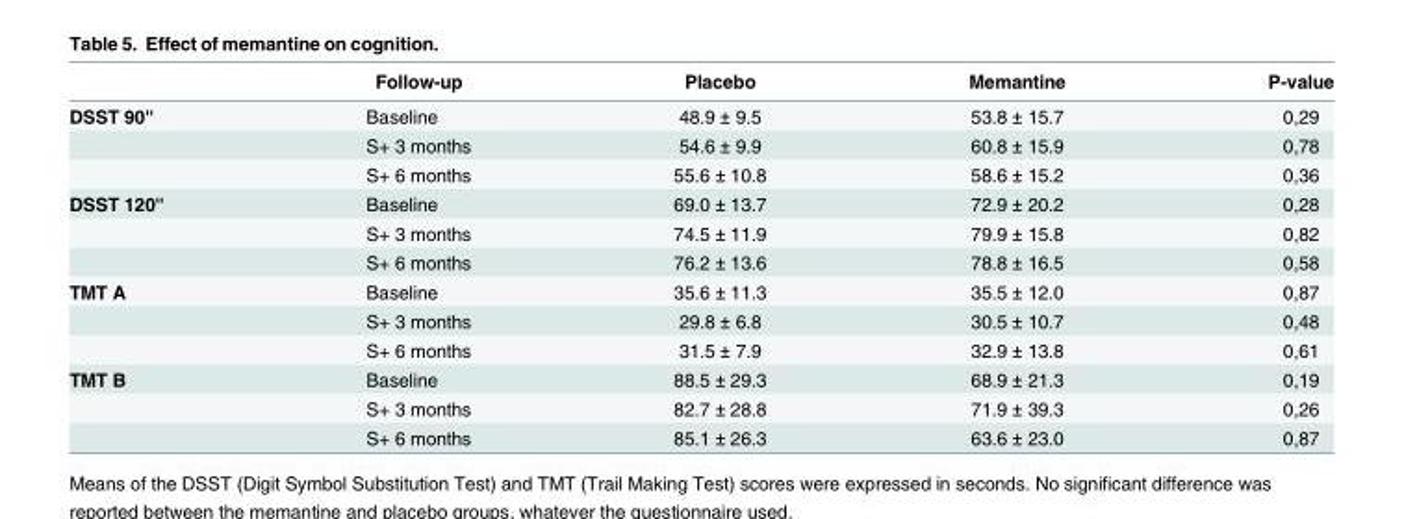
<table><thead><tr><td></td><td>Follow-up</td><td>Placebo</td><td>Memantine</td><td>P-value</td></tr></thead><tbody><tr><td rowspan="3">DSST 90&#x27;&#x27;</td><td>Baseline</td><td>48.9 ± 9.5</td><td>53.8 ± 15.7</td><td>0,29</td></tr><tr><td>S+ 3 months</td><td>54.6 ± 9.9</td><td>60.8 ± 15.9</td><td>0,78</td></tr><tr><td>S+ 6 months</td><td>55.6 ± 10.8</td><td>58.6 ± 15.2</td><td>0,36</td></tr><tr><td rowspan="3">DSST 120&#x27;&#x27;</td><td>Baseline</td><td>69.0 ± 13.7</td><td>72.9 ± 20.2</td><td>0,28</td></tr><tr><td>S+ 3 months</td><td>74.5 ± 11.9</td><td>79.9 ± 15.8</td><td>0,82</td></tr><tr><td>S+ 6 months</td><td>76.2 ± 13.6</td><td>78.8 ± 16.5</td><td>0,58</td></tr><tr><td rowspan="3">TMT A</td><td>Baseline</td><td>35.6 ± 11.3</td><td>35.5 ± 12.0</td><td>0,87</td></tr><tr><td>S+ 3 months</td><td>29.8 ± 6.8</td><td>30.5 ± 10.7</td><td>0,48</td></tr><tr><td>S+ 6 months</td><td>31.5 ± 7.9</td><td>32.9 ± 13.8</td><td>0,61</td></tr><tr><td rowspan="3">TMT B</td><td>Baseline</td><td>88.5 ± 29.3</td><td>68.9 ± 21.3</td><td>0,19</td></tr><tr><td>S+ 3 months</td><td>82.7 ± 28.8</td><td>71.9 ± 39.3</td><td>0,26</td></tr><tr><td>S+ 6 months</td><td>85.1 ± 26.3</td><td>63.6 ± 23.0</td><td>0,87</td></tr></tbody></table>